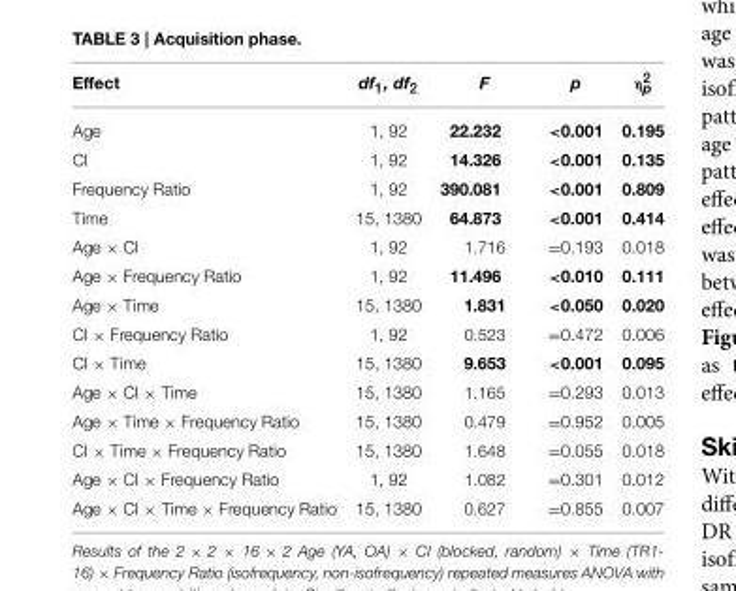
<table><thead><tr><td>Effect</td><td>df<sub>1</sub>, df<sub>2</sub></td><td>F</td><td>p</td><td>η<sup>2</sup><sub>p</sub></td></tr></thead><tbody><tr><td>Age</td><td>1, 92</td><td>22.232</td><td>&lt;0.001</td><td>0.195</td></tr><tr><td>CI</td><td>1, 92</td><td>14.326</td><td>&lt;0.001</td><td>0.135</td></tr><tr><td>Frequency Ratio</td><td>1, 92</td><td>390.081</td><td>&lt;0.001</td><td>0.809</td></tr><tr><td>Time</td><td>15, 1380</td><td>64.873</td><td>&lt;0.001</td><td>0.414</td></tr><tr><td>Age × CI</td><td>1, 92</td><td>1.716</td><td>=0.193</td><td>0.018</td></tr><tr><td>Age × Frequency Ratio</td><td>1, 92</td><td>11.496</td><td>&lt;0.010</td><td>0.111</td></tr><tr><td>Age × Time</td><td>15, 1380</td><td>1.831</td><td>&lt;0.050</td><td>0.020</td></tr><tr><td>CI × Frequency Ratio</td><td>1, 92</td><td>0.523</td><td>=0.472</td><td>0.006</td></tr><tr><td>CI × Time</td><td>15, 1380</td><td>9.653</td><td>&lt;0.001</td><td>0.095</td></tr><tr><td>Age × CI × Time</td><td>15, 1380</td><td>1.165</td><td>=0.293</td><td>0.013</td></tr><tr><td>Age × Time × Frequency Ratio</td><td>15, 1380</td><td>0.479</td><td>=0.952</td><td>0.005</td></tr><tr><td>CI × Time × Frequency Ratio</td><td>15, 1380</td><td>1.648</td><td>=0.055</td><td>0.018</td></tr><tr><td>Age × CI × Frequency Ratio</td><td>1, 92</td><td>1.082</td><td>=0.301</td><td>0.012</td></tr><tr><td>Age × CI × Time × Frequency Ratio</td><td>15, 1380</td><td>0.627</td><td>=0.855</td><td>0.007</td></tr></tbody></table>